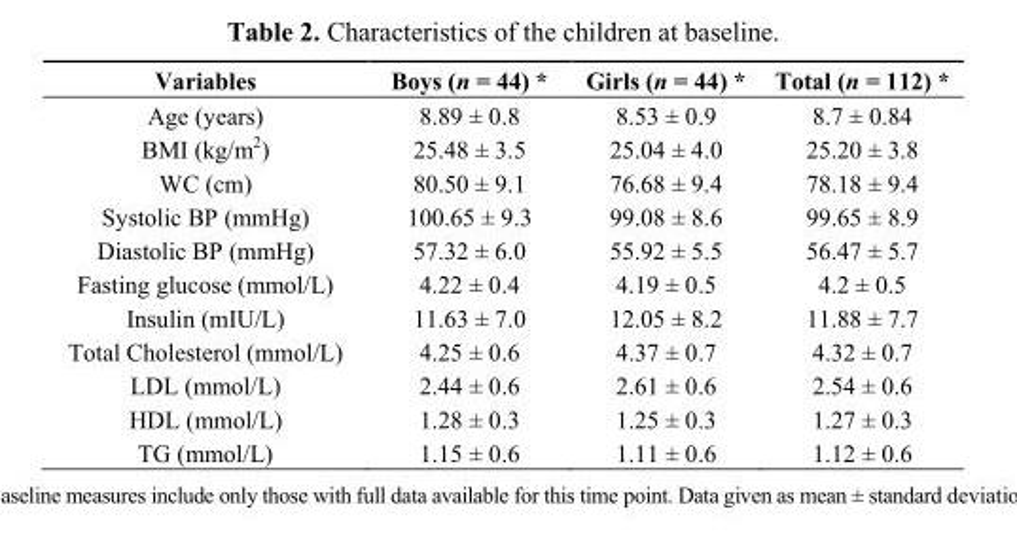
<table><thead><tr><td>Variables</td><td>Boys (n = 44) *</td><td>Girls (n = 44) *</td><td>Total (n = 112) *</td></tr></thead><tbody><tr><td>Age (years)</td><td>8.89 ± 0.8</td><td>8.53 ± 0.9</td><td>8.7 ± 0.84</td></tr><tr><td>BMI (kg/m<sup>2</sup>)</td><td>25.48 ± 3.5</td><td>25.04 ± 4.0</td><td>25.20 ± 3.8</td></tr><tr><td>WC (cm)</td><td>80.50 ± 9.1</td><td>76.68 ± 9.4</td><td>78.18 ± 9.4</td></tr><tr><td>Systolic BP (mmHg)</td><td>100.65 ± 9.3</td><td>99.08 ± 8.6</td><td>99.65 ± 8.9</td></tr><tr><td>Diastolic BP (mmHg)</td><td>57.32 ± 6.0</td><td>55.92 ± 5.5</td><td>56.47 ± 5.7</td></tr><tr><td>Fasting glucose (mmol/L)</td><td>4.22 ± 0.4</td><td>4.19 ± 0.5</td><td>4.2 ± 0.5</td></tr><tr><td>Insulin (mIU/L)</td><td>11.63 ± 7.0</td><td>12.05 ± 8.2</td><td>11.88 ± 7.7</td></tr><tr><td>Total Cholesterol (mmol/L)</td><td>4.25 ± 0.6</td><td>4.37 ± 0.7</td><td>4.32 ± 0.7</td></tr><tr><td>LDL (mmol/L)</td><td>2.44 ± 0.6</td><td>2.61 ± 0.6</td><td>2.54 ± 0.6</td></tr><tr><td>HDL (mmol/L)</td><td>1.28 ± 0.3</td><td>1.25 ± 0.3</td><td>1.27 ± 0.3</td></tr><tr><td>TG (mmol/L)</td><td>1.15 ± 0.6</td><td>1.11 ± 0.6</td><td>1.12 ± 0.6</td></tr></tbody></table>